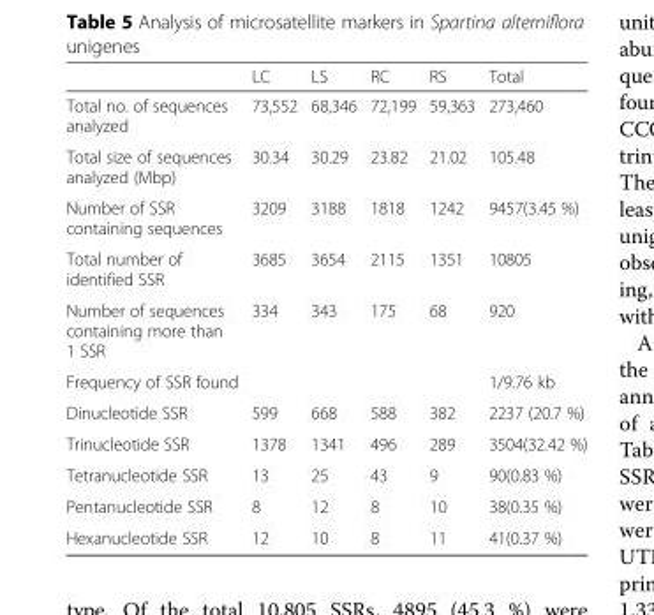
<table><thead><tr><td></td><td>LC</td><td>LS</td><td>RC</td><td>RS</td><td>Total</td></tr></thead><tbody><tr><td>Total no. of sequences analyzed</td><td>73,552</td><td>68,346</td><td>72,199</td><td>59,363</td><td>273,460</td></tr><tr><td>Total size of sequences analyzed (Mbp)</td><td>30.34</td><td>30.29</td><td>23.82</td><td>21.02</td><td>105.48</td></tr><tr><td>Number of SSR containing sequences</td><td>3209</td><td>3188</td><td>1818</td><td>1242</td><td>9457(3.45 %)</td></tr><tr><td>Total number of identified SSR</td><td>3685</td><td>3654</td><td>2115</td><td>1351</td><td>10805</td></tr><tr><td>Number of sequences containing more than 1 SSR</td><td>334</td><td>343</td><td>175</td><td>68</td><td>920</td></tr><tr><td>Frequency of SSR found</td><td></td><td></td><td></td><td></td><td>1/9.76 kb</td></tr><tr><td>Dinucleotide SSR</td><td>599</td><td>668</td><td>588</td><td>382</td><td>2237 (20.7 %)</td></tr><tr><td>Trinucleotide SSR</td><td>1378</td><td>1341</td><td>496</td><td>289</td><td>3504(32.42 %)</td></tr><tr><td>Tetranucleotide SSR</td><td>13</td><td>25</td><td>43</td><td>9</td><td>90(0.83 %)</td></tr><tr><td>Pentanucleotide SSR</td><td>8</td><td>12</td><td>8</td><td>10</td><td>38(0.35 %)</td></tr><tr><td>Hexanucleotide SSR</td><td>12</td><td>10</td><td>8</td><td>11</td><td>41(0.37 %)</td></tr></tbody></table>